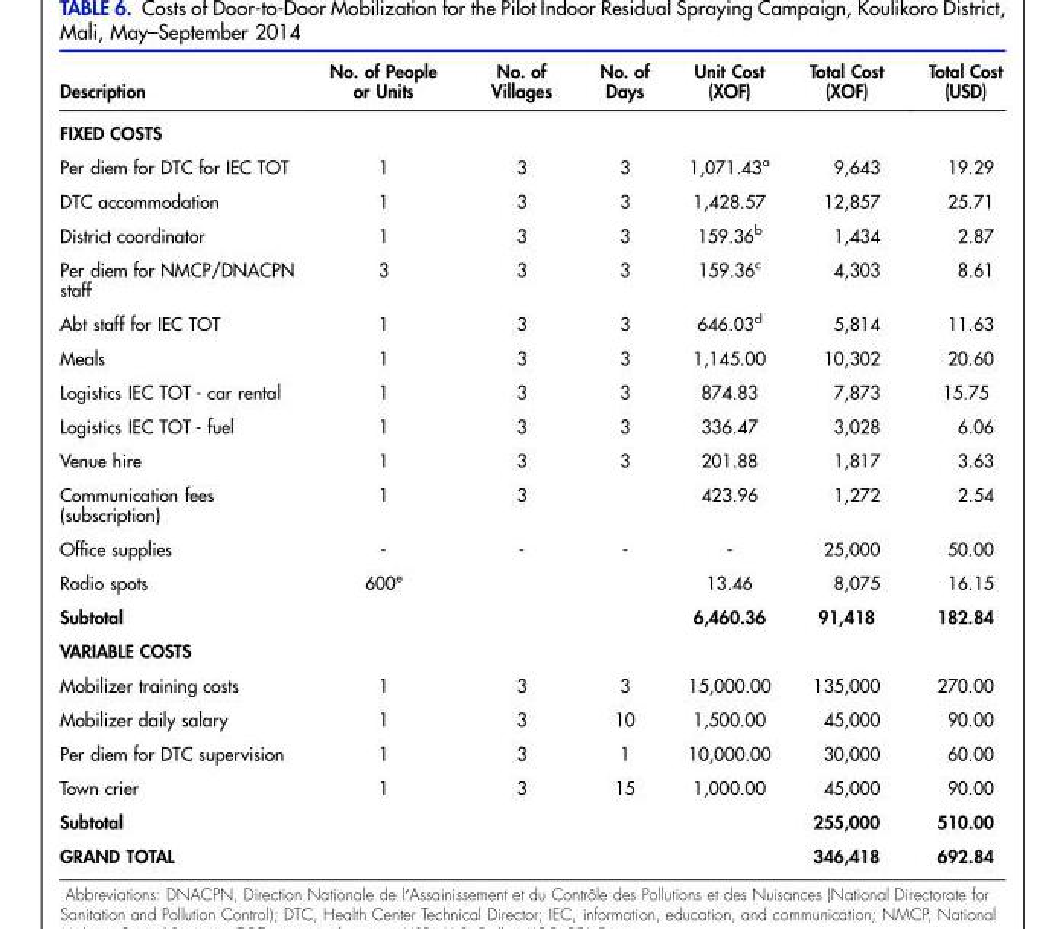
<table><thead><tr><td>Description</td><td>No. of People or Units</td><td>No. of Villages</td><td>No. of Days</td><td>Unit Cost (XOF)</td><td>Total Cost (XOF)</td><td>Total Cost (USD)</td></tr></thead><tbody><tr><td colspan="7">FIXED COSTS</td></tr><tr><td>Per diem for DTC for IEC TOT</td><td>1</td><td>3</td><td>3</td><td>1,071.43<sup>a</sup></td><td>9,643</td><td>19.29</td></tr><tr><td>DTC accommodation</td><td>1</td><td>3</td><td>3</td><td>1,428.57</td><td>12,857</td><td>25.71</td></tr><tr><td>District coordinator</td><td>1</td><td>3</td><td>3</td><td>159.36<sup>b</sup></td><td>1,434</td><td>2.87</td></tr><tr><td>Per diem for NMCP/DNACPN staff</td><td>3</td><td>3</td><td>3</td><td>159.36<sup>c</sup></td><td>4,303</td><td>8.61</td></tr><tr><td>Abt staff for IEC TOT</td><td>1</td><td>3</td><td>3</td><td>646.03<sup>d</sup></td><td>5,814</td><td>11.63</td></tr><tr><td>Meals</td><td>1</td><td>3</td><td>3</td><td>1,145.00</td><td>10,302</td><td>20.60</td></tr><tr><td>Logistics IEC TOT - car rental</td><td>1</td><td>3</td><td>3</td><td>874.83</td><td>7,873</td><td>15.75</td></tr><tr><td>Logistics IEC TOT - fuel</td><td>1</td><td>3</td><td>3</td><td>336.47</td><td>3,028</td><td>6.06</td></tr><tr><td>Venue hire</td><td>1</td><td>3</td><td>3</td><td>201.88</td><td>1,817</td><td>3.63</td></tr><tr><td>Communication fees (subscription)</td><td>1</td><td>3</td><td></td><td>423.96</td><td>1,272</td><td>2.54</td></tr><tr><td>Office supplies</td><td>-</td><td>-</td><td>-</td><td>-</td><td>25,000</td><td>50.00</td></tr><tr><td>Radio spots</td><td>600<sup>e</sup></td><td></td><td></td><td>13.46</td><td>8,075</td><td>16.15</td></tr><tr><td>Subtotal</td><td></td><td></td><td></td><td>6,460.36</td><td>91,418</td><td>182.84</td></tr><tr><td colspan="7">VARIABLE COSTS</td></tr><tr><td>Mobilizer training costs</td><td>1</td><td>3</td><td>3</td><td>15,000.00</td><td>135,000</td><td>270.00</td></tr><tr><td>Mobilizer daily salary</td><td>1</td><td>3</td><td>10</td><td>1,500.00</td><td>45,000</td><td>90.00</td></tr><tr><td>Per diem for DTC supervision</td><td>1</td><td>3</td><td>1</td><td>10,000.00</td><td>30,000</td><td>60.00</td></tr><tr><td>Town crier</td><td>1</td><td>3</td><td>15</td><td>1,000.00</td><td>45,000</td><td>90.00</td></tr><tr><td>Subtotal</td><td></td><td></td><td></td><td></td><td>255,000</td><td>510.00</td></tr><tr><td>GRAND TOTAL</td><td></td><td></td><td></td><td></td><td>346,418</td><td>692.84</td></tr></tbody></table>